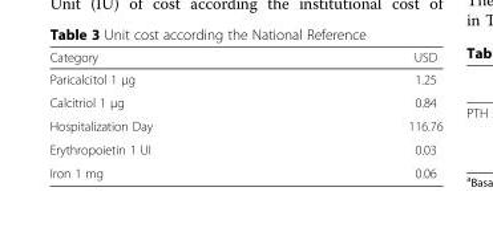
<table><thead><tr><td>Category</td><td>USD</td></tr></thead><tbody><tr><td>Paricalcitol 1 μg</td><td>1.25</td></tr><tr><td>Calcitriol 1 μg</td><td>0.84</td></tr><tr><td>Hospitalization Day</td><td>116.76</td></tr><tr><td>Erythropoietin 1 UI</td><td>0.03</td></tr><tr><td>Iron 1 mg</td><td>0.06</td></tr></tbody></table>